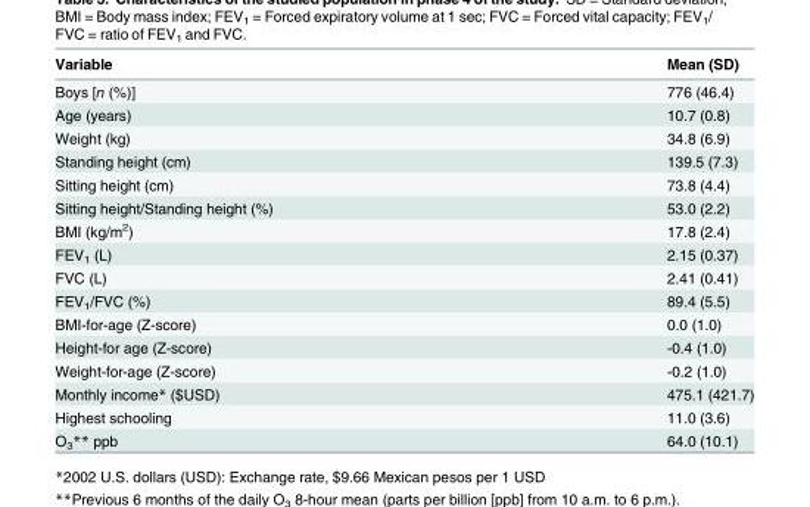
<table><thead><tr><td>Variable</td><td>Mean (SD)</td></tr></thead><tbody><tr><td>Boys [n (%)]</td><td>776 (46.4)</td></tr><tr><td>Age (years)</td><td>10.7 (0.8)</td></tr><tr><td>Weight (kg)</td><td>34.8 (6.9)</td></tr><tr><td>Standing height (cm)</td><td>139.5 (7.3)</td></tr><tr><td>Sitting height (cm)</td><td>73.8 (4.4)</td></tr><tr><td>Sitting height/Standing height (%)</td><td>53.0 (2.2)</td></tr><tr><td>BMI (kg/m<sup>2</sup>)</td><td>17.8 (2.4)</td></tr><tr><td>FEV<sub>1</sub> (L)</td><td>2.15 (0.37)</td></tr><tr><td>FVC (L)</td><td>2.41 (0.41)</td></tr><tr><td>FEV<sub>1</sub>/FVC (%)</td><td>89.4 (5.5)</td></tr><tr><td>BMI-for-age (Z-score)</td><td>0.0 (1.0)</td></tr><tr><td>Height-for age (Z-score)</td><td>-0.4 (1.0)</td></tr><tr><td>Weight-for-age (Z-score)</td><td>-0.2 (1.0)</td></tr><tr><td>Monthly income* ($USD)</td><td>475.1 (421.7)</td></tr><tr><td>Highest schooling</td><td>11.0 (3.6)</td></tr><tr><td>O<sub>3</sub>** ppb</td><td>64.0 (10.1)</td></tr></tbody></table>